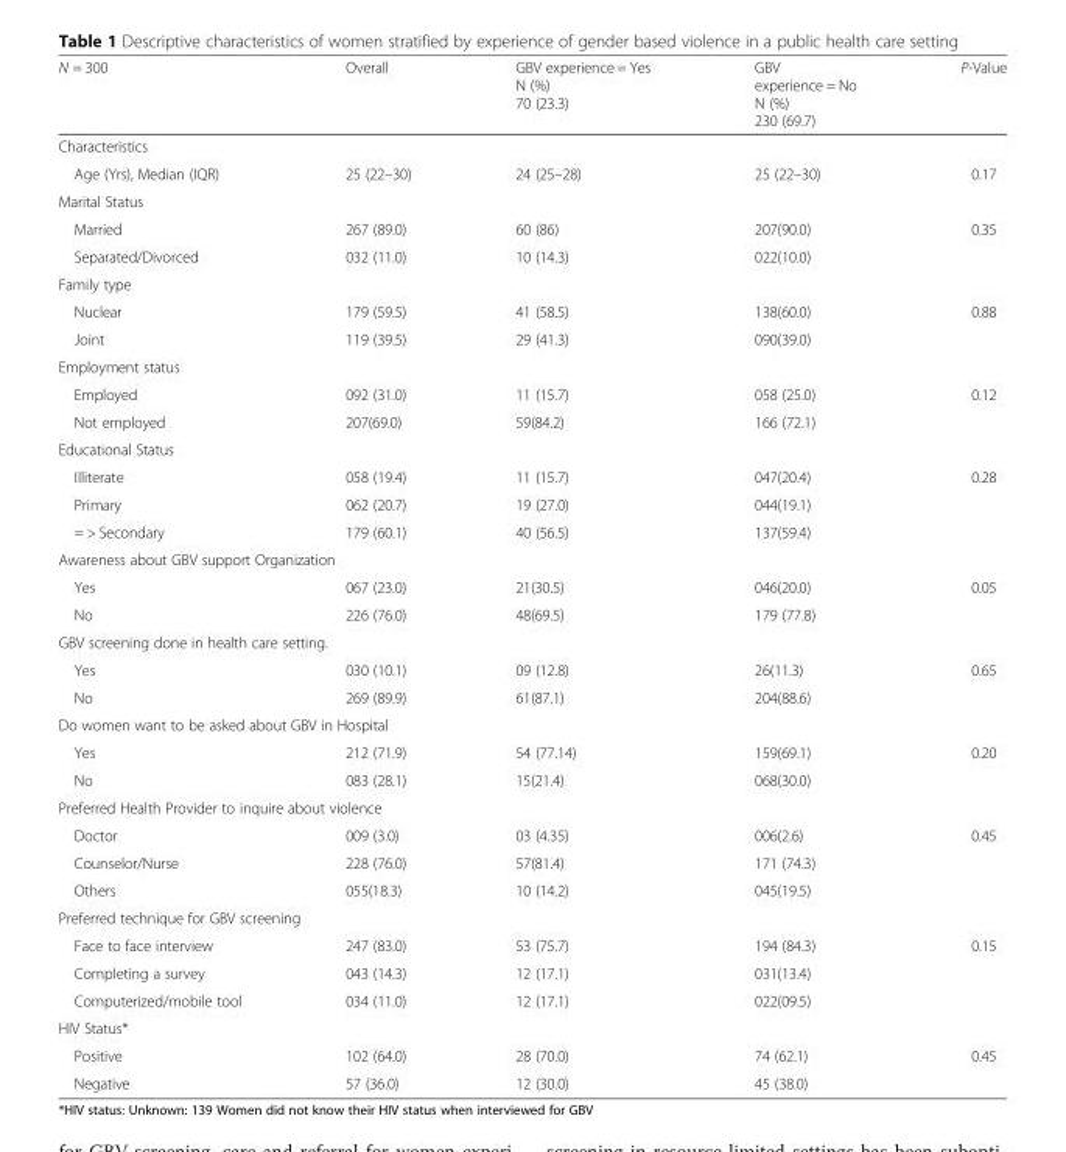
<table><thead><tr><td>N = 300</td><td>Overall</td><td>GBV experience = Yes N (%) 70 (23.3)</td><td>GBV experience = No N (%) 230 (69.7)</td><td>P-Value</td></tr></thead><tbody><tr><td colspan="5">Characteristics</td></tr><tr><td>Age (Yrs), Median (IQR)</td><td>25 (22–30)</td><td>24 (25–28)</td><td>25 (22–30)</td><td>0.17</td></tr><tr><td colspan="5">Marital Status</td></tr><tr><td>Married</td><td>267 (89.0)</td><td>60 (86)</td><td>207(90.0)</td><td rowspan="2">0.35</td></tr><tr><td>Separated/Divorced</td><td>032 (11.0)</td><td>10 (14.3)</td><td>022(10.0)</td></tr><tr><td colspan="5">Family type</td></tr><tr><td>Nuclear</td><td>179 (59.5)</td><td>41 (58.5)</td><td>138(60.0)</td><td rowspan="2">0.88</td></tr><tr><td>Joint</td><td>119 (39.5)</td><td>29 (41.3)</td><td>090(39.0)</td></tr><tr><td colspan="5">Employment status</td></tr><tr><td>Employed</td><td>092 (31.0)</td><td>11 (15.7)</td><td>058 (25.0)</td><td rowspan="2">0.12</td></tr><tr><td>Not employed</td><td>207(69.0)</td><td>59(84.2)</td><td>166 (72.1)</td></tr><tr><td colspan="5">Educational Status</td></tr><tr><td>Illiterate</td><td>058 (19.4)</td><td>11 (15.7)</td><td>047(20.4)</td><td rowspan="3">0.28</td></tr><tr><td>Primary</td><td>062 (20.7)</td><td>19 (27.0)</td><td>044(19.1)</td></tr><tr><td>= &gt; Secondary</td><td>179 (60.1)</td><td>40 (56.5)</td><td>137(59.4)</td></tr><tr><td colspan="5">Awareness about GBV support Organization</td></tr><tr><td>Yes</td><td>067 (23.0)</td><td>21(30.5)</td><td>046(20.0)</td><td rowspan="2">0.05</td></tr><tr><td>No</td><td>226 (76.0)</td><td>48(69.5)</td><td>179 (77.8)</td></tr><tr><td colspan="5">GBV screening done in health care setting.</td></tr><tr><td>Yes</td><td>030 (10.1)</td><td>09 (12.8)</td><td>26(11.3)</td><td rowspan="2">0.65</td></tr><tr><td>No</td><td>269 (89.9)</td><td>61(87.1)</td><td>204(88.6)</td></tr><tr><td colspan="5">Do women want to be asked about GBV in Hospital</td></tr><tr><td>Yes</td><td>212 (71.9)</td><td>54 (77.14)</td><td>159(69.1)</td><td rowspan="2">0.20</td></tr><tr><td>No</td><td>083 (28.1)</td><td>15(21.4)</td><td>068(30.0)</td></tr><tr><td colspan="5">Preferred Health Provider to inquire about violence</td></tr><tr><td>Doctor</td><td>009 (3.0)</td><td>03 (4.35)</td><td>006(2.6)</td><td rowspan="3">0.45</td></tr><tr><td>Counselor/Nurse</td><td>228 (76.0)</td><td>57(81.4)</td><td>171 (74.3)</td></tr><tr><td>Others</td><td>055(18.3)</td><td>10 (14.2)</td><td>045(19.5)</td></tr><tr><td colspan="5">Preferred technique for GBV screening</td></tr><tr><td>Face to face interview</td><td>247 (83.0)</td><td>53 (75.7)</td><td>194 (84.3)</td><td rowspan="3">0.15</td></tr><tr><td>Completing a survey</td><td>043 (14.3)</td><td>12 (17.1)</td><td>031(13.4)</td></tr><tr><td>Computerized/mobile tool</td><td>034 (11.0)</td><td>12 (17.1)</td><td>022(09.5)</td></tr><tr><td colspan="5">HIV Status*</td></tr><tr><td>Positive</td><td>102 (64.0)</td><td>28 (70.0)</td><td>74 (62.1)</td><td rowspan="2">0.45</td></tr><tr><td>Negative</td><td>57 (36.0)</td><td>12 (30.0)</td><td>45 (38.0)</td></tr></tbody></table>